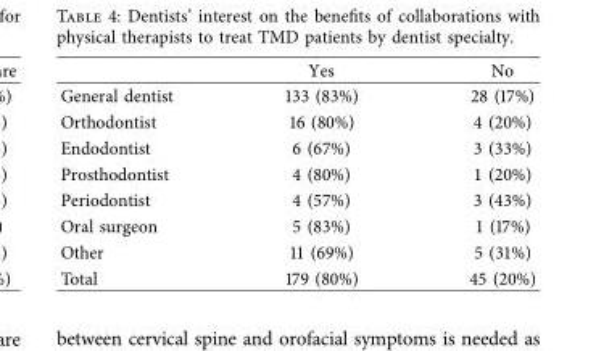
<table><thead><tr><td></td><td>Yes</td><td>No</td></tr></thead><tbody><tr><td>General dentist</td><td>133 (83%)</td><td>28 (17%)</td></tr><tr><td>Orthodontist</td><td>16 (80%)</td><td>4 (20%)</td></tr><tr><td>Endodontist</td><td>6 (67%)</td><td>3 (33%)</td></tr><tr><td>Prosthodontist</td><td>4 (80%)</td><td>1 (20%)</td></tr><tr><td>Periodontist</td><td>4 (57%)</td><td>3 (43%)</td></tr><tr><td>Oral surgeon</td><td>5 (83%)</td><td>1 (17%)</td></tr><tr><td>Other</td><td>11 (69%)</td><td>5 (31%)</td></tr><tr><td>Total</td><td>179 (80%)</td><td>45 (20%)</td></tr></tbody></table>